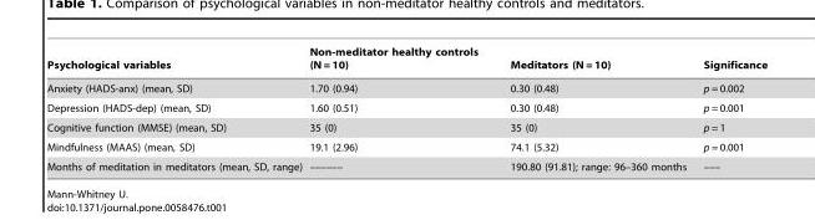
<table><thead><tr><td>Psychological variables</td><td>Non-meditator healthy controls (N = 10)</td><td>Meditators (N = 10)</td><td>Significance</td></tr></thead><tbody><tr><td>Anxiety (HADS-anx) (mean, SD)</td><td>1.70 (0.94)</td><td>0.30 (0.48)</td><td>p = 0.002</td></tr><tr><td>Depression (HADS-dep) (mean, SD)</td><td>1.60 (0.51)</td><td>0.30 (0.48)</td><td>p = 0.001</td></tr><tr><td>Cognitive function (MMSE) (mean, SD)</td><td>35 (0)</td><td>35 (0)</td><td>p = 1</td></tr><tr><td>Mindfulness (MAAS) (mean, SD)</td><td>19.1 (2.96)</td><td>74.1 (5.32)</td><td>p = 0.001</td></tr><tr><td>Months of meditation in meditators (mean, SD, range)</td><td>––––––</td><td>190.80 (91.81); range: 96–360 months</td><td>–––</td></tr></tbody></table>